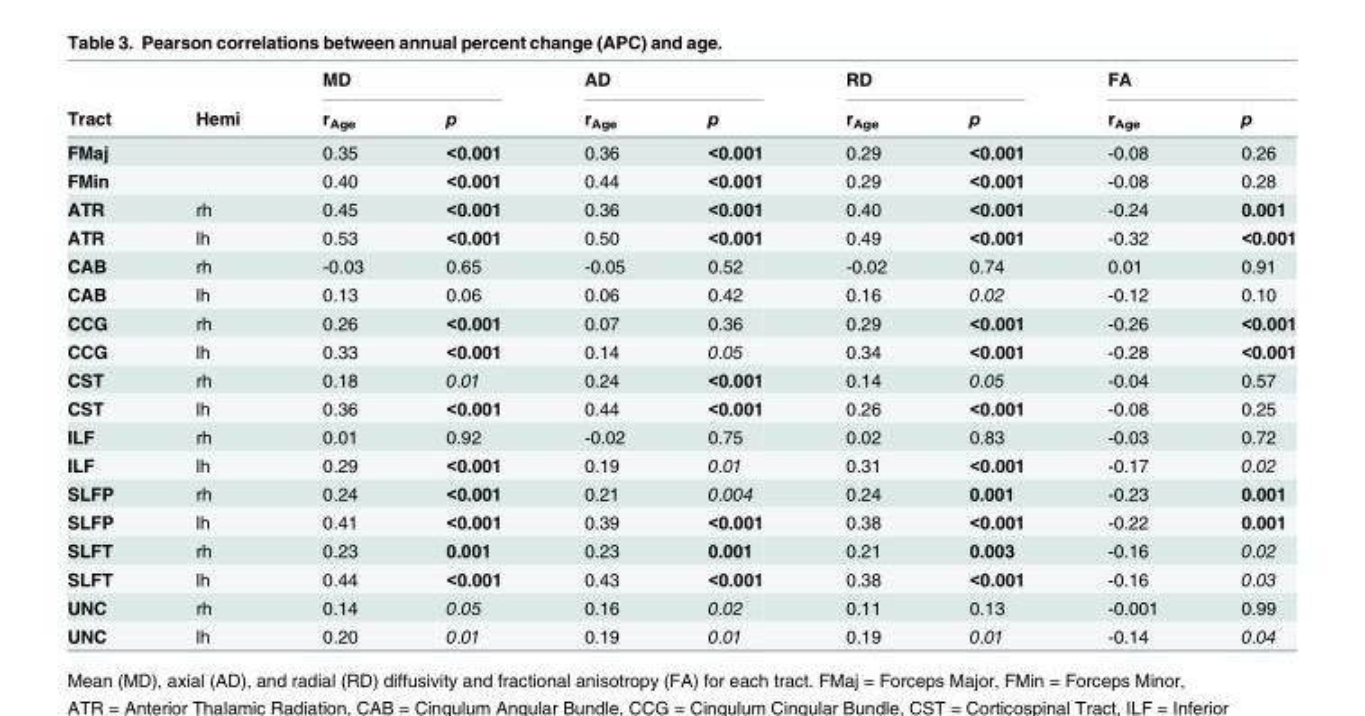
<table><thead><tr><td rowspan="2">Tract</td><td rowspan="2">Hemi</td><td colspan="2">MD</td><td colspan="2">AD</td><td colspan="2">RD</td><td colspan="2">FA</td></tr><tr><td>r<sub>Age</sub></td><td>p</td><td>r<sub>Age</sub></td><td>p</td><td>r<sub>Age</sub></td><td>p</td><td>r<sub>Age</sub></td><td>p</td></tr></thead><tbody><tr><td>FMaj</td><td></td><td>0.35</td><td>&lt;0.001</td><td>0.36</td><td>&lt;0.001</td><td>0.29</td><td>&lt;0.001</td><td>-0.08</td><td>0.26</td></tr><tr><td>FMin</td><td></td><td>0.40</td><td>&lt;0.001</td><td>0.44</td><td>&lt;0.001</td><td>0.29</td><td>&lt;0.001</td><td>-0.08</td><td>0.28</td></tr><tr><td>ATR</td><td>rh</td><td>0.45</td><td>&lt;0.001</td><td>0.36</td><td>&lt;0.001</td><td>0.40</td><td>&lt;0.001</td><td>-0.24</td><td>0.001</td></tr><tr><td>ATR</td><td>lh</td><td>0.53</td><td>&lt;0.001</td><td>0.50</td><td>&lt;0.001</td><td>0.49</td><td>&lt;0.001</td><td>-0.32</td><td>&lt;0.001</td></tr><tr><td>CAB</td><td>rh</td><td>-0.03</td><td>0.65</td><td>-0.05</td><td>0.52</td><td>-0.02</td><td>0.74</td><td>0.01</td><td>0.91</td></tr><tr><td>CAB</td><td>lh</td><td>0.13</td><td>0.06</td><td>0.06</td><td>0.42</td><td>0.16</td><td>0.02</td><td>-0.12</td><td>0.10</td></tr><tr><td>CCG</td><td>rh</td><td>0.26</td><td>&lt;0.001</td><td>0.07</td><td>0.36</td><td>0.29</td><td>&lt;0.001</td><td>-0.26</td><td>&lt;0.001</td></tr><tr><td>CCG</td><td>lh</td><td>0.33</td><td>&lt;0.001</td><td>0.14</td><td>0.05</td><td>0.34</td><td>&lt;0.001</td><td>-0.28</td><td>&lt;0.001</td></tr><tr><td>CST</td><td>rh</td><td>0.18</td><td>0.01</td><td>0.24</td><td>&lt;0.001</td><td>0.14</td><td>0.05</td><td>-0.04</td><td>0.57</td></tr><tr><td>CST</td><td>lh</td><td>0.36</td><td>&lt;0.001</td><td>0.44</td><td>&lt;0.001</td><td>0.26</td><td>&lt;0.001</td><td>-0.08</td><td>0.25</td></tr><tr><td>ILF</td><td>rh</td><td>0.01</td><td>0.92</td><td>-0.02</td><td>0.75</td><td>0.02</td><td>0.83</td><td>-0.03</td><td>0.72</td></tr><tr><td>ILF</td><td>lh</td><td>0.29</td><td>&lt;0.001</td><td>0.19</td><td>0.01</td><td>0.31</td><td>&lt;0.001</td><td>-0.17</td><td>0.02</td></tr><tr><td>SLFP</td><td>rh</td><td>0.24</td><td>&lt;0.001</td><td>0.21</td><td>0.004</td><td>0.24</td><td>0.001</td><td>-0.23</td><td>0.001</td></tr><tr><td>SLFP</td><td>lh</td><td>0.41</td><td>&lt;0.001</td><td>0.39</td><td>&lt;0.001</td><td>0.38</td><td>&lt;0.001</td><td>-0.22</td><td>0.001</td></tr><tr><td>SLFT</td><td>rh</td><td>0.23</td><td>0.001</td><td>0.23</td><td>0.001</td><td>0.21</td><td>0.003</td><td>-0.16</td><td>0.02</td></tr><tr><td>SLFT</td><td>lh</td><td>0.44</td><td>&lt;0.001</td><td>0.43</td><td>&lt;0.001</td><td>0.38</td><td>&lt;0.001</td><td>-0.16</td><td>0.03</td></tr><tr><td>UNC</td><td>rh</td><td>0.14</td><td>0.05</td><td>0.16</td><td>0.02</td><td>0.11</td><td>0.13</td><td>-0.001</td><td>0.99</td></tr><tr><td>UNC</td><td>lh</td><td>0.20</td><td>0.01</td><td>0.19</td><td>0.01</td><td>0.19</td><td>0.01</td><td>-0.14</td><td>0.04</td></tr></tbody></table>